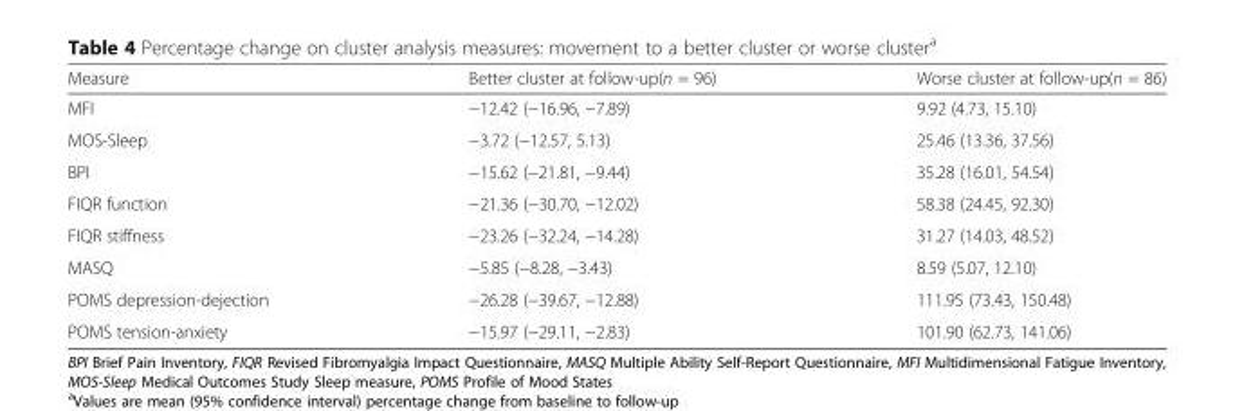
<table><thead><tr><td>Measure</td><td>Better cluster at follow-up(n = 96)</td><td>Worse cluster at follow-up(n = 86)</td></tr></thead><tbody><tr><td>MFI</td><td>−12.42 (−16.96, −7.89)</td><td>9.92 (4.73, 15.10)</td></tr><tr><td>MOS-Sleep</td><td>−3.72 (−12.57, 5.13)</td><td>25.46 (13.36, 37.56)</td></tr><tr><td>BPI</td><td>−15.62 (−21.81, −9.44)</td><td>35.28 (16.01, 54.54)</td></tr><tr><td>FIQR function</td><td>−21.36 (−30.70, −12.02)</td><td>58.38 (24.45, 92.30)</td></tr><tr><td>FIQR stiffness</td><td>−23.26 (−32.24, −14.28)</td><td>31.27 (14.03, 48.52)</td></tr><tr><td>MASQ</td><td>−5.85 (−8.28, −3.43)</td><td>8.59 (5.07, 12.10)</td></tr><tr><td>POMS depression-dejection</td><td>−26.28 (−39.67, −12.88)</td><td>111.95 (73.43, 150.48)</td></tr><tr><td>POMS tension-anxiety</td><td>−15.97 (−29.11, −2.83)</td><td>101.90 (62.73, 141.06)</td></tr></tbody></table>